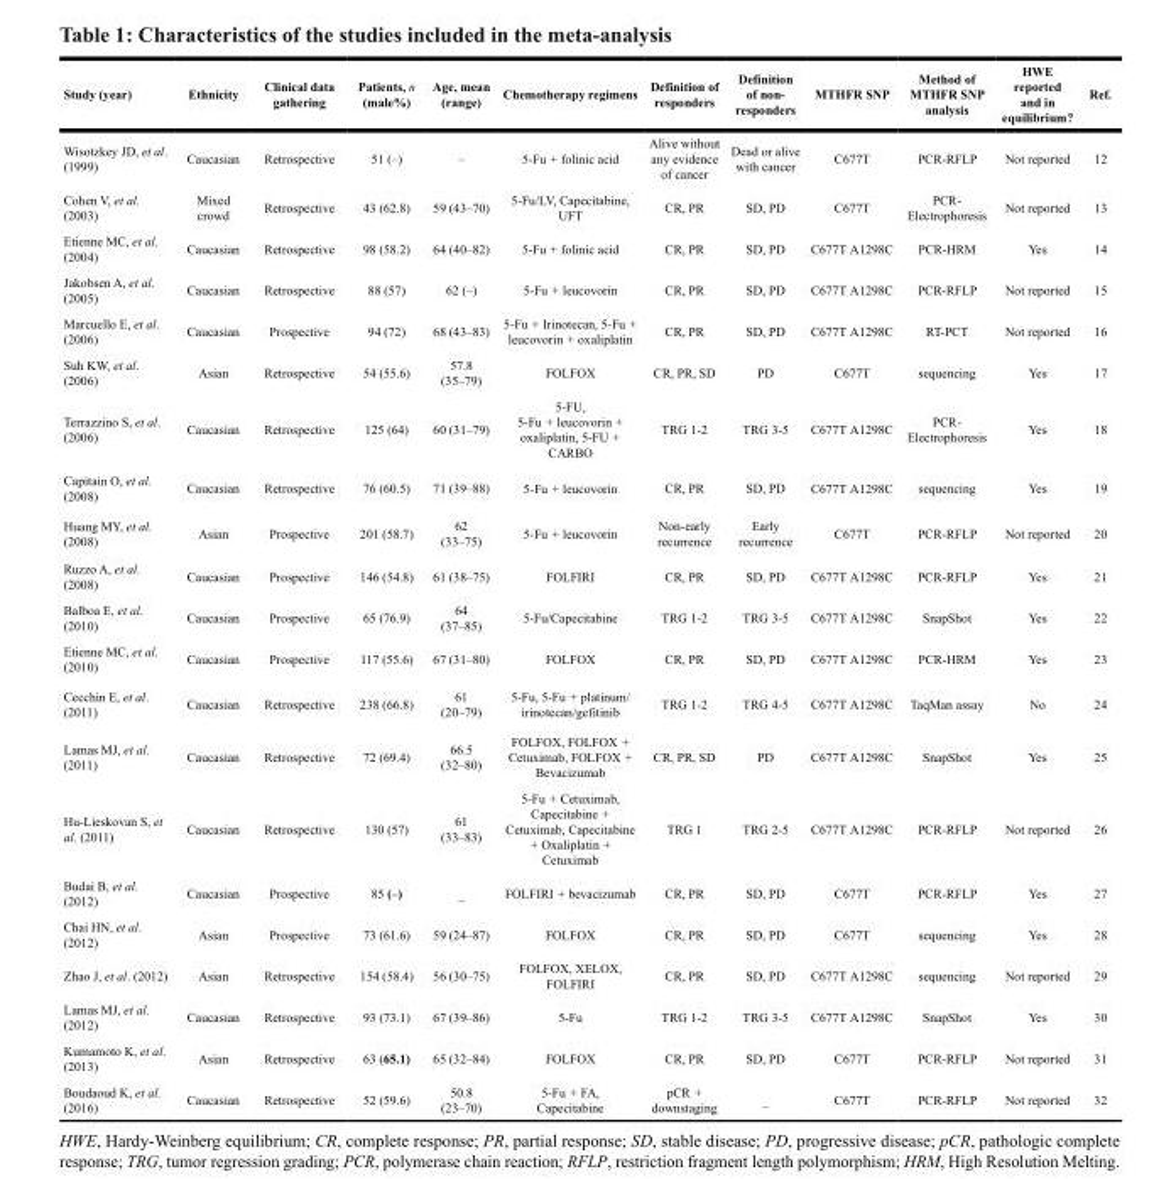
<table><thead><tr><td>Study (year)</td><td>Ethnicity</td><td>Clinical data gathering</td><td>Patients, n (male%)</td><td>Age, mean (range)</td><td>Chemotherapy regimens</td><td>Definition of responders</td><td>Definition of non- responders</td><td>MTHFR SNP</td><td>Method of MTHFR SNP analysis</td><td>HWE reported and in equilibrium?</td><td>Ref.</td></tr></thead><tbody><tr><td>Wisotzkey JD, et al. (1999)</td><td>Caucasian</td><td>Retrospective</td><td>51 (–)</td><td>–</td><td>5-Fu + folinic acid</td><td>Alive without any evidence of cancer</td><td>Dead or alive with cancer</td><td>C677T</td><td>PCR-RFLP</td><td>Not reported</td><td>12</td></tr><tr><td>Cohen V, et al. (2003)</td><td>Mixed crowd</td><td>Retrospective</td><td>43 (62.8)</td><td>59 (43–70)</td><td>5-Fu/LV, Capecitabine, UFT</td><td>CR, PR</td><td>SD, PD</td><td>C677T</td><td>PCR- Electrophoresis</td><td>Not reported</td><td>13</td></tr><tr><td>Etienne MC, et al. (2004)</td><td>Caucasian</td><td>Retrospective</td><td>98 (58.2)</td><td>64 (40–82)</td><td>5-Fu + folinic acid</td><td>CR, PR</td><td>SD, PD</td><td>C677T A1298C</td><td>PCR-HRM</td><td>Yes</td><td>14</td></tr><tr><td>Jakobsen A, et al. (2005)</td><td>Caucasian</td><td>Retrospective</td><td>88 (57)</td><td>62 (–)</td><td>5-Fu + leucovorin</td><td>CR, PR</td><td>SD, PD</td><td>C677T A1298C</td><td>PCR-RFLP</td><td>Not reported</td><td>15</td></tr><tr><td>Marcuello E, et al. (2006)</td><td>Caucasian</td><td>Prospective</td><td>94 (72)</td><td>68 (43–83)</td><td>5-Fu + Irinotecan, 5-Fu + leucovorin + oxaliplatin</td><td>CR, PR</td><td>SD, PD</td><td>C677T A1298C</td><td>RT-PCT</td><td>Not reported</td><td>16</td></tr><tr><td>Suh KW, et al. (2006)</td><td>Asian</td><td>Retrospective</td><td>54 (55.6)</td><td>57.8 (35–79)</td><td>FOLFOX</td><td>CR, PR, SD</td><td>PD</td><td>C677T</td><td>sequencing</td><td>Yes</td><td>17</td></tr><tr><td>Terrazzino S, et al. (2006)</td><td>Caucasian</td><td>Retrospective</td><td>125 (64)</td><td>60 (31–79)</td><td>5-FU, 5-Fu + leucovorin + oxaliplatin, 5-FU + CARBO</td><td>TRG 1-2</td><td>TRG 3-5</td><td>C677T A1298C</td><td>PCR- Electrophoresis</td><td>Yes</td><td>18</td></tr><tr><td>Capitain O, et al. (2008)</td><td>Caucasian</td><td>Retrospective</td><td>76 (60.5)</td><td>71 (39–88)</td><td>5-Fu + leucovorin</td><td>CR, PR</td><td>SD, PD</td><td>C677T A1298C</td><td>sequencing</td><td>Yes</td><td>19</td></tr><tr><td>Huang MY, et al. (2008)</td><td>Asian</td><td>Prospective</td><td>201 (58.7)</td><td>62 (33–75)</td><td>5-Fu + leucovorin</td><td>Non-early recurrence</td><td>Early recurrence</td><td>C677T</td><td>PCR-RFLP</td><td>Not reported</td><td>20</td></tr><tr><td>Ruzzo A, et al. (2008)</td><td>Caucasian</td><td>Prospective</td><td>146 (54.8)</td><td>61 (38–75)</td><td>FOLFIRI</td><td>CR, PR</td><td>SD, PD</td><td>C677T A1298C</td><td>PCR-RFLP</td><td>Yes</td><td>21</td></tr><tr><td>Balboa E, et al. (2010)</td><td>Caucasian</td><td>Prospective</td><td>65 (76.9)</td><td>64 (37–85)</td><td>5-Fu/Capecitabine</td><td>TRG 1-2</td><td>TRG 3-5</td><td>C677T A1298C</td><td>SnapShot</td><td>Yes</td><td>22</td></tr><tr><td>Etienne MC, et al. (2010)</td><td>Caucasian</td><td>Prospective</td><td>117 (55.6)</td><td>67 (31–80)</td><td>FOLFOX</td><td>CR, PR</td><td>SD, PD</td><td>C677T A1298C</td><td>PCR-HRM</td><td>Yes</td><td>23</td></tr><tr><td>Cecchin E, et al. (2011)</td><td>Caucasian</td><td>Retrospective</td><td>238 (66.8)</td><td>61 (20–79)</td><td>5-Fu, 5-Fu + platinum/ irinotecan/gefitinib</td><td>TRG 1-2</td><td>TRG 4-5</td><td>C677T A1298C</td><td>TaqMan assay</td><td>No</td><td>24</td></tr><tr><td>Lamas MJ, et al. (2011)</td><td>Caucasian</td><td>Retrospective</td><td>72 (69.4)</td><td>66.5 (32–80)</td><td>FOLFOX, FOLFOX + Cetuximab, FOLFOX + Bevacizumab</td><td>CR, PR, SD</td><td>PD</td><td>C677T A1298C</td><td>SnapShot</td><td>Yes</td><td>25</td></tr><tr><td>Hu-Lieskovan S, et al. (2011)</td><td>Caucasian</td><td>Retrospective</td><td>130 (57)</td><td>61 (33–83)</td><td>5-Fu + Cetuximab, Capecitabine + Cetuximab, Capecitabine + Oxaliplatin + Cetuximab</td><td>TRG 1</td><td>TRG 2-5</td><td>C677T A1298C</td><td>PCR-RFLP</td><td>Not reported</td><td>26</td></tr><tr><td>Budai B, et al. (2012)</td><td>Caucasian</td><td>Prospective</td><td>85 (–)</td><td>_</td><td>FOLFIRI + bevacizumab</td><td>CR, PR</td><td>SD, PD</td><td>C677T</td><td>PCR-RFLP</td><td>Yes</td><td>27</td></tr><tr><td>Chai HN, et al. (2012)</td><td>Asian</td><td>Prospective</td><td>73 (61.6)</td><td>59 (24–87)</td><td>FOLFOX</td><td>CR, PR</td><td>SD, PD</td><td>C677T</td><td>sequencing</td><td>Yes</td><td>28</td></tr><tr><td>Zhao J, et al. (2012)</td><td>Asian</td><td>Retrospective</td><td>154 (58.4)</td><td>56 (30–75)</td><td>FOLFOX, XELOX, FOLFIRI</td><td>CR, PR</td><td>SD, PD</td><td>C677T A1298C</td><td>sequencing</td><td>Not reported</td><td>29</td></tr><tr><td>Lamas MJ, et al. (2012)</td><td>Caucasian</td><td>Retrospective</td><td>93 (73.1)</td><td>67 (39–86)</td><td>5-Fu</td><td>TRG 1-2</td><td>TRG 3-5</td><td>C677T A1298C</td><td>SnapShot</td><td>Yes</td><td>30</td></tr><tr><td>Kumamoto K, et al. (2013)</td><td>Asian</td><td>Retrospective</td><td>63 (65.1)</td><td>65 (32–84)</td><td>FOLFOX</td><td>CR, PR</td><td>SD, PD</td><td>C677T</td><td>PCR-RFLP</td><td>Not reported</td><td>31</td></tr><tr><td>Boudaoud K, et al. (2016)</td><td>Caucasian</td><td>Retrospective</td><td>52 (59.6)</td><td>50.8 (23–70)</td><td>5-Fu + FA, Capecitabine</td><td>pCR + downstaging</td><td>_</td><td>C677T</td><td>PCR-RFLP</td><td>Not reported</td><td>32</td></tr></tbody></table>